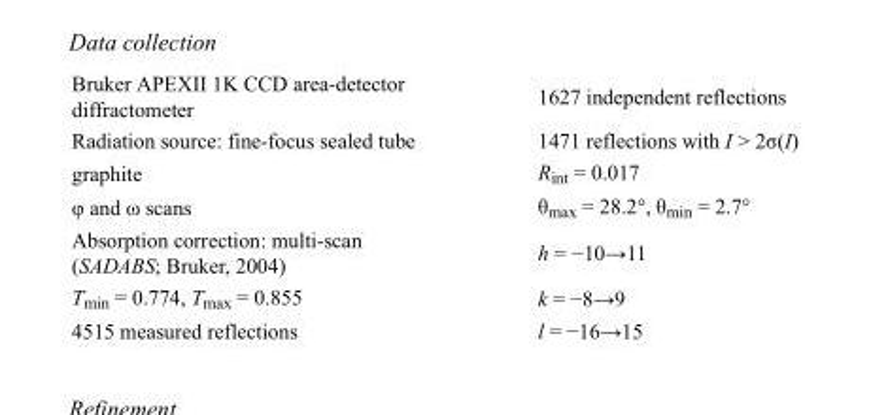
<table><tbody><tr><td>Bruker APEXII 1K CCD area-detector diffractometer</td><td>1627 independent reflections</td></tr><tr><td>Radiation source: fine-focus sealed tube</td><td>1471 reflections with I &gt; 2σ(I)</td></tr><tr><td>graphite</td><td>R<sub>int</sub> = 0.017</td></tr><tr><td>φ and ω scans</td><td>θ<sub>max</sub> = 28.2°, θ<sub>min</sub> = 2.7°</td></tr><tr><td>Absorption correction: multi-scan (SADABS; Bruker, 2004)</td><td>h = −10→11</td></tr><tr><td>T<sub>min</sub> = 0.774, T<sub>max</sub> = 0.855</td><td>k = −8→9</td></tr><tr><td>4515 measured reflections</td><td>l = −16→15</td></tr></tbody></table>